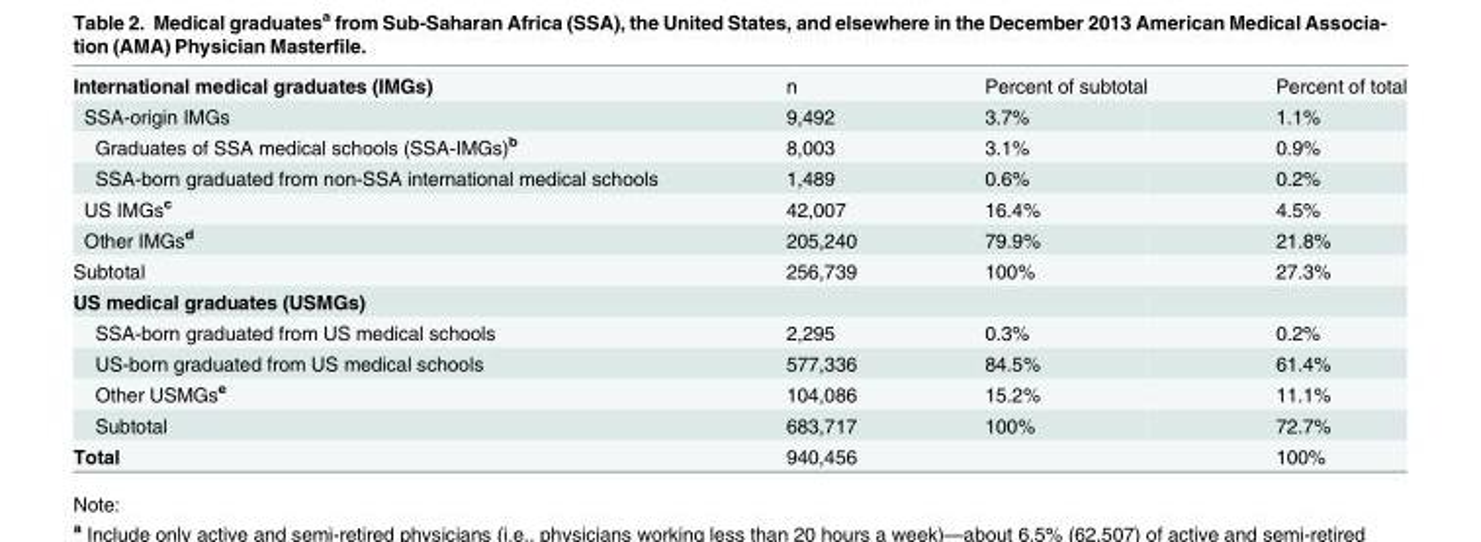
<table><tbody><tr><td>International medical graduates (IMGs)</td><td>n</td><td>Percent of subtotal</td><td>Percent of total</td></tr><tr><td>SSA-origin IMGs</td><td>9,492</td><td>3.7%</td><td>1.1%</td></tr><tr><td>Graduates of SSA medical schools (SSA-IMGs)<sup>b</sup></td><td>8,003</td><td>3.1%</td><td>0.9%</td></tr><tr><td>SSA-born graduated from non-SSA international medical schools</td><td>1,489</td><td>0.6%</td><td>0.2%</td></tr><tr><td>US IMGs<sup>c</sup></td><td>42,007</td><td>16.4%</td><td>4.5%</td></tr><tr><td>Other IMGs<sup>d</sup></td><td>205,240</td><td>79.9%</td><td>21.8%</td></tr><tr><td>Subtotal</td><td>256,739</td><td>100%</td><td>27.3%</td></tr><tr><td colspan="4">US medical graduates (USMGs)</td></tr><tr><td>SSA-born graduated from US medical schools</td><td>2,295</td><td>0.3%</td><td>0.2%</td></tr><tr><td>US-born graduated from US medical schools</td><td>577,336</td><td>84.5%</td><td>61.4%</td></tr><tr><td>Other USMGs<sup>e</sup></td><td>104,086</td><td>15.2%</td><td>11.1%</td></tr><tr><td>Subtotal</td><td>683,717</td><td>100%</td><td>72.7%</td></tr><tr><td>Total</td><td>940,456</td><td></td><td>100%</td></tr></tbody></table>